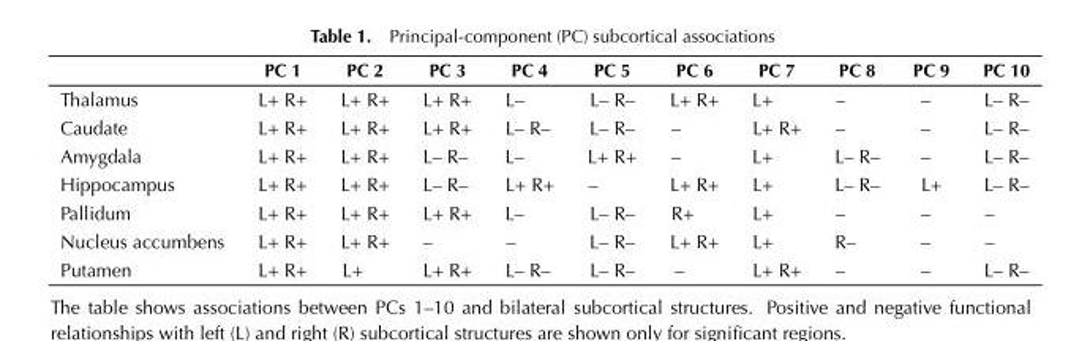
<table><thead><tr><td></td><td>PC 1</td><td>PC 2</td><td>PC 3</td><td>PC 4</td><td>PC 5</td><td>PC 6</td><td>PC 7</td><td>PC 8</td><td>PC 9</td><td>PC 10</td></tr></thead><tbody><tr><td>Thalamus</td><td>L+ R+</td><td>L+ R+</td><td>L+ R+</td><td>L–</td><td>L– R–</td><td>L+ R+</td><td>L+</td><td>–</td><td>–</td><td>L– R–</td></tr><tr><td>Caudate</td><td>L+ R+</td><td>L+ R+</td><td>L+ R+</td><td>L– R–</td><td>L– R–</td><td>–</td><td>L+ R+</td><td>–</td><td>–</td><td>L– R–</td></tr><tr><td>Amygdala</td><td>L+ R+</td><td>L+ R+</td><td>L– R–</td><td>L–</td><td>L+ R+</td><td>–</td><td>L+</td><td>L– R–</td><td>–</td><td>L– R–</td></tr><tr><td>Hippocampus</td><td>L+ R+</td><td>L+ R+</td><td>L– R–</td><td>L+ R+</td><td>–</td><td>L+ R+</td><td>L+</td><td>L– R–</td><td>L+</td><td>L– R–</td></tr><tr><td>Pallidum</td><td>L+ R+</td><td>L+ R+</td><td>L+ R+</td><td>L–</td><td>L– R–</td><td>R+</td><td>L+</td><td>–</td><td>–</td><td>–</td></tr><tr><td>Nucleus accumbens</td><td>L+ R+</td><td>L+ R+</td><td>–</td><td>–</td><td>L– R–</td><td>L+ R+</td><td>L+</td><td>R–</td><td>–</td><td>–</td></tr><tr><td>Putamen</td><td>L+ R+</td><td>L+</td><td>L+ R+</td><td>L– R–</td><td>L– R–</td><td>–</td><td>L+ R+</td><td>–</td><td>–</td><td>L– R–</td></tr></tbody></table>